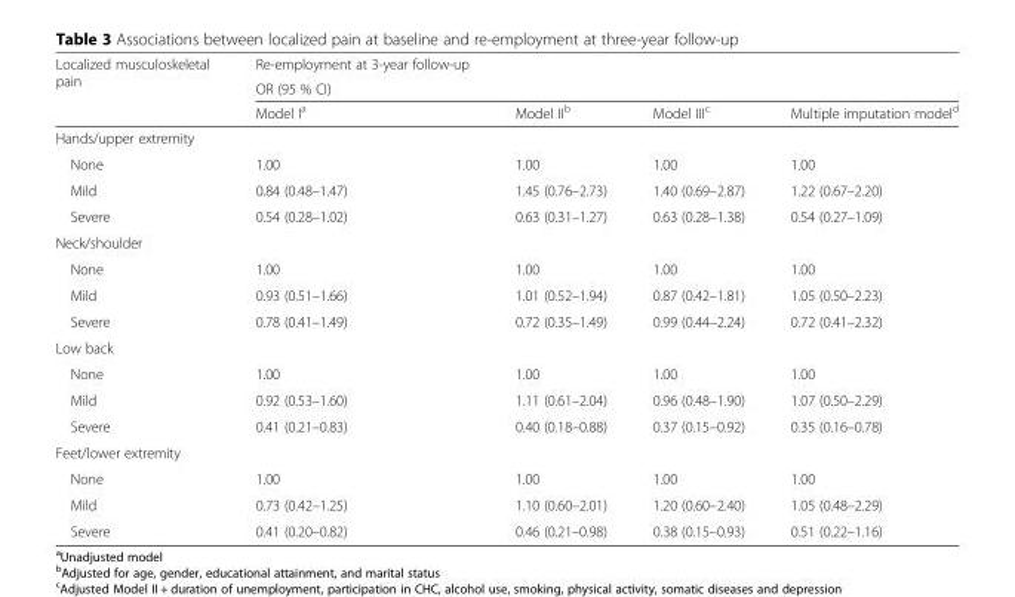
<table><thead><tr><td rowspan="3">Localized musculoskeletal pain</td><td>Re-employment at 3-year follow-up</td><td></td><td></td><td></td></tr><tr><td colspan="4">OR (95 % CI)</td></tr><tr><td>Model I<sup>a</sup></td><td>Model II<sup>b</sup></td><td>Model III<sup>c</sup></td><td>Multiple imputation model<sup>d</sup></td></tr></thead><tbody><tr><td colspan="5">Hands/upper extremity</td></tr><tr><td>None</td><td>1.00</td><td>1.00</td><td>1.00</td><td>1.00</td></tr><tr><td>Mild</td><td>0.84 (0.48–1.47)</td><td>1.45 (0.76–2.73)</td><td>1.40 (0.69–2.87)</td><td>1.22 (0.67–2.20)</td></tr><tr><td>Severe</td><td>0.54 (0.28–1.02)</td><td>0.63 (0.31–1.27)</td><td>0.63 (0.28–1.38)</td><td>0.54 (0.27–1.09)</td></tr><tr><td colspan="5">Neck/shoulder</td></tr><tr><td>None</td><td>1.00</td><td>1.00</td><td>1.00</td><td>1.00</td></tr><tr><td>Mild</td><td>0.93 (0.51–1.66)</td><td>1.01 (0.52–1.94)</td><td>0.87 (0.42–1.81)</td><td>1.05 (0.50–2.23)</td></tr><tr><td>Severe</td><td>0.78 (0.41–1.49)</td><td>0.72 (0.35–1.49)</td><td>0.99 (0.44–2.24)</td><td>0.72 (0.41–2.32)</td></tr><tr><td colspan="5">Low back</td></tr><tr><td>None</td><td>1.00</td><td>1.00</td><td>1.00</td><td>1.00</td></tr><tr><td>Mild</td><td>0.92 (0.53–1.60)</td><td>1.11 (0.61–2.04)</td><td>0.96 (0.48–1.90)</td><td>1.07 (0.50–2.29)</td></tr><tr><td>Severe</td><td>0.41 (0.21–0.83)</td><td>0.40 (0.18–0.88)</td><td>0.37 (0.15–0.92)</td><td>0.35 (0.16–0.78)</td></tr><tr><td colspan="5">Feet/lower extremity</td></tr><tr><td>None</td><td>1.00</td><td>1.00</td><td>1.00</td><td>1.00</td></tr><tr><td>Mild</td><td>0.73 (0.42–1.25)</td><td>1.10 (0.60–2.01)</td><td>1.20 (0.60–2.40)</td><td>1.05 (0.48–2.29)</td></tr><tr><td>Severe</td><td>0.41 (0.20–0.82)</td><td>0.46 (0.21–0.98)</td><td>0.38 (0.15–0.93)</td><td>0.51 (0.22–1.16)</td></tr></tbody></table>